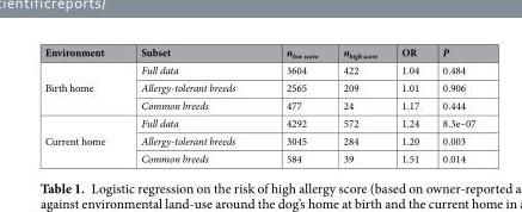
<table><thead><tr><td>Environment</td><td>Subset</td><td>n<sub>low score</sub></td><td>n<sub>high score</sub></td><td>OR</td><td>P</td></tr></thead><tbody><tr><td rowspan="3">Birth home</td><td>Full data</td><td>3604</td><td>422</td><td>1.04</td><td>0.484</td></tr><tr><td>Allergy-tolerant breeds</td><td>2565</td><td>209</td><td>1.01</td><td>0.906</td></tr><tr><td>Common breeds</td><td>477</td><td>24</td><td>1.17</td><td>0.444</td></tr><tr><td rowspan="3">Current home</td><td>Full data</td><td>4292</td><td>572</td><td>1.24</td><td>8.3e–07</td></tr><tr><td>Allergy-tolerant breeds</td><td>3045</td><td>284</td><td>1.20</td><td>0.003</td></tr><tr><td>Common breeds</td><td>584</td><td>39</td><td>1.51</td><td>0.014</td></tr></tbody></table>